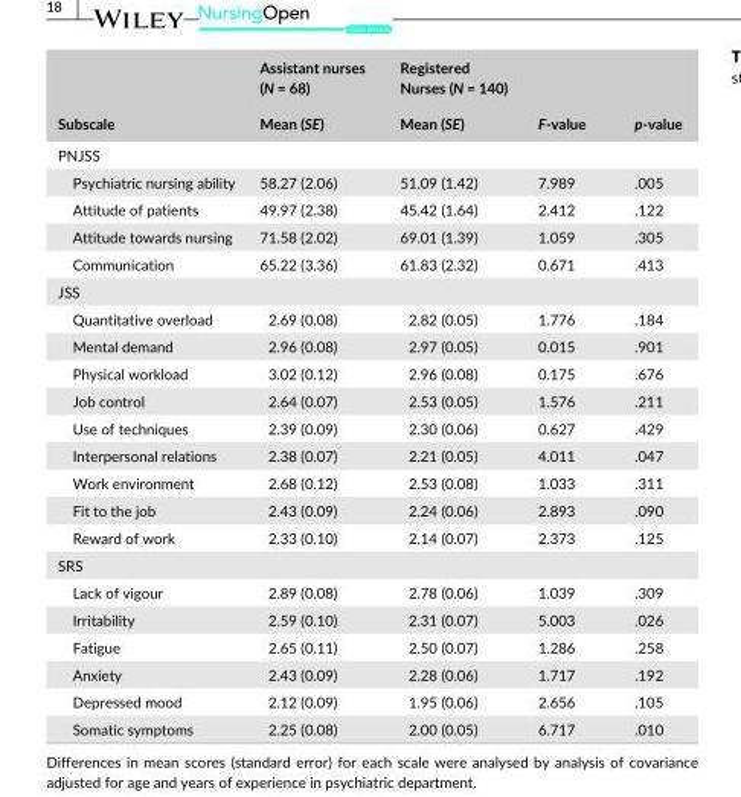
<table><thead><tr><td rowspan="2">Subscale</td><td rowspan="2">Assistant nurses (N = 68) Mean (SE)</td><td rowspan="2">Registered Nurses (N = 140) Mean (SE)</td><td rowspan="2">F- value</td><td rowspan="2">p- value</td></tr><tr></tr></thead><tbody><tr><td colspan="5">PNJSS</td></tr><tr><td>Psychiatric nursing ability</td><td>58.27 (2.06)</td><td>51.09 (1.42)</td><td>7.989</td><td>.005</td></tr><tr><td>Attitude of patients</td><td>49.97 (2.38)</td><td>45.42 (1.64)</td><td>2.412</td><td>.122</td></tr><tr><td>Attitude towards nursing</td><td>71.58 (2.02)</td><td>69.01 (1.39)</td><td>1.059</td><td>.305</td></tr><tr><td>Communication</td><td>65.22 (3.36)</td><td>61.83 (2.32)</td><td>0.671</td><td>.413</td></tr><tr><td colspan="5">JSS</td></tr><tr><td>Quantitative overload</td><td>2.69 (0.08)</td><td>2.82 (0.05)</td><td>1.776</td><td>.184</td></tr><tr><td>Mental demand</td><td>2.96 (0.08)</td><td>2.97 (0.05)</td><td>0.015</td><td>.901</td></tr><tr><td>Physical workload</td><td>3.02 (0.12)</td><td>2.96 (0.08)</td><td>0.175</td><td>.676</td></tr><tr><td>Job control</td><td>2.64 (0.07)</td><td>2.53 (0.05)</td><td>1.576</td><td>.211</td></tr><tr><td>Use of techniques</td><td>2.39 (0.09)</td><td>2.30 (0.06)</td><td>0.627</td><td>.429</td></tr><tr><td>Interpersonal relations</td><td>2.38 (0.07)</td><td>2.21 (0.05)</td><td>4.011</td><td>.047</td></tr><tr><td>Work environment</td><td>2.68 (0.12)</td><td>2.53 (0.08)</td><td>1.033</td><td>.311</td></tr><tr><td>Fit to the job</td><td>2.43 (0.09)</td><td>2.24 (0.06)</td><td>2.893</td><td>.090</td></tr><tr><td>Reward of work</td><td>2.33 (0.10)</td><td>2.14 (0.07)</td><td>2.373</td><td>.125</td></tr><tr><td colspan="5">SRS</td></tr><tr><td>Lack of vigour</td><td>2.89 (0.08)</td><td>2.78 (0.06)</td><td>1.039</td><td>.309</td></tr><tr><td>Irritability</td><td>2.59 (0.10)</td><td>2.31 (0.07)</td><td>5.003</td><td>.026</td></tr><tr><td>Fatigue</td><td>2.65 (0.11)</td><td>2.50 (0.07)</td><td>1.286</td><td>.258</td></tr><tr><td>Anxiety</td><td>2.43 (0.09)</td><td>2.28 (0.06)</td><td>1.717</td><td>.192</td></tr><tr><td>Depressed mood</td><td>2.12 (0.09)</td><td>1.95 (0.06)</td><td>2.656</td><td>.105</td></tr><tr><td>Somatic symptoms</td><td>2.25 (0.08)</td><td>2.00 (0.05)</td><td>6.717</td><td>.010</td></tr></tbody></table>